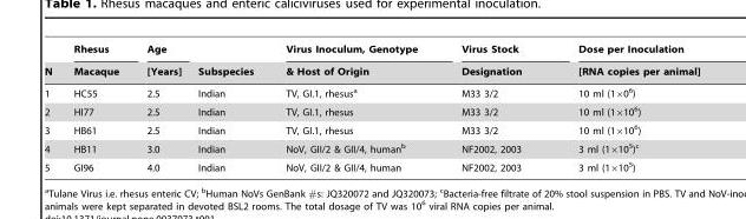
<table><thead><tr><td rowspan="2">N</td><td rowspan="2">Rhesus Macaque</td><td rowspan="2">Age [Years]</td><td rowspan="2">Subspecies</td><td rowspan="2">Virus Inoculum, Genotype &amp; Host of Origin</td><td rowspan="2">Virus Stock Designation</td><td rowspan="2">Dose per Inoculation [RNA copies per animal]</td></tr><tr></tr></thead><tbody><tr><td>1</td><td>HC55</td><td>2.5</td><td>Indian</td><td>TV, GI.1, rhesus<sup>a</sup></td><td>M33 3/2</td><td>10 ml (1×0<sup>6</sup>)</td></tr><tr><td>2</td><td>HI77</td><td>2.5</td><td>Indian</td><td>TV, GI.1, rhesus</td><td>M33 3/2</td><td>10 ml (1×10<sup>6</sup>)</td></tr><tr><td>3</td><td>HB61</td><td>2.5</td><td>Indian</td><td>TV, GI.1, rhesus</td><td>M33 3/2</td><td>10 ml (1×10<sup>6</sup>)</td></tr><tr><td>4</td><td>HB11</td><td>3.0</td><td>Indian</td><td>NoV, GII/2 &amp; GII/4, human<sup>b</sup></td><td>NF2002, 2003</td><td>3 ml (1×10<sup>5</sup>)<sup>c</sup></td></tr><tr><td>5</td><td>GI96</td><td>4.0</td><td>Indian</td><td>NoV, GII/2 &amp; GII/4, human</td><td>NF2002, 2003</td><td>3 ml (1×10<sup>5</sup>)</td></tr></tbody></table>